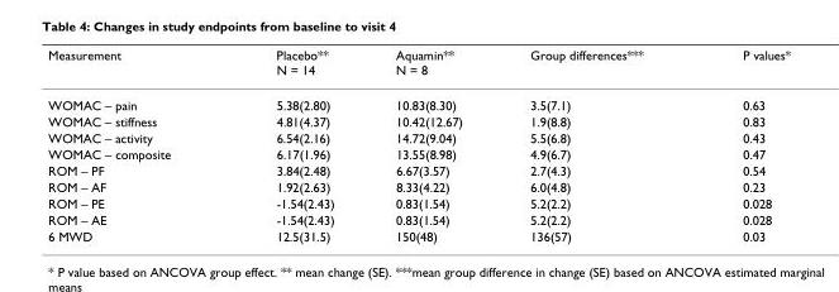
<table><thead><tr><td>Measurement</td><td>Placebo** N = 14</td><td>Aquamin** N = 8</td><td>Group differences***</td><td>P values*</td></tr></thead><tbody><tr><td>WOMAC – pain</td><td>5.38(2.80)</td><td>10.83(8.30)</td><td>3.5(7.1)</td><td>0.63</td></tr><tr><td>WOMAC – stiffness</td><td>4.81(4.37)</td><td>10.42(12.67)</td><td>1.9(8.8)</td><td>0.83</td></tr><tr><td>WOMAC – activity</td><td>6.54(2.16)</td><td>14.72(9.04)</td><td>5.5(6.8)</td><td>0.43</td></tr><tr><td>WOMAC – composite</td><td>6.17(1.96)</td><td>13.55(8.98)</td><td>4.9(6.7)</td><td>0.47</td></tr><tr><td>ROM – PF</td><td>3.84(2.48)</td><td>6.67(3.57)</td><td>2.7(4.3)</td><td>0.54</td></tr><tr><td>ROM – AF</td><td>1.92(2.63)</td><td>8.33(4.22)</td><td>6.0(4.8)</td><td>0.23</td></tr><tr><td>ROM – PE</td><td>-1.54(2.43)</td><td>0.83(1.54)</td><td>5.2(2.2)</td><td>0.028</td></tr><tr><td>ROM – AE</td><td>-1.54(2.43)</td><td>0.83(1.54)</td><td>5.2(2.2)</td><td>0.028</td></tr><tr><td>6 MWD</td><td>12.5(31.5)</td><td>150(48)</td><td>136(57)</td><td>0.03</td></tr></tbody></table>